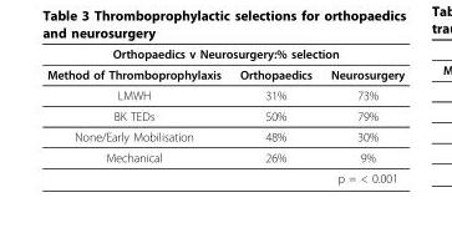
<table><thead><tr><td colspan="3">Orthopaedics v Neurosurgery:% selection</td></tr><tr><td>Method of Thromboprophylaxis</td><td>Orthopaedics</td><td>Neurosurgery</td></tr></thead><tbody><tr><td>LMWH</td><td>31%</td><td>73%</td></tr><tr><td>BK TEDs</td><td>50%</td><td>79%</td></tr><tr><td>None/Early Mobilisation</td><td>48%</td><td>30%</td></tr><tr><td rowspan="2">Mechanical</td><td>26%</td><td>9%</td></tr><tr><td></td><td>p = &lt; 0.001</td></tr></tbody></table>